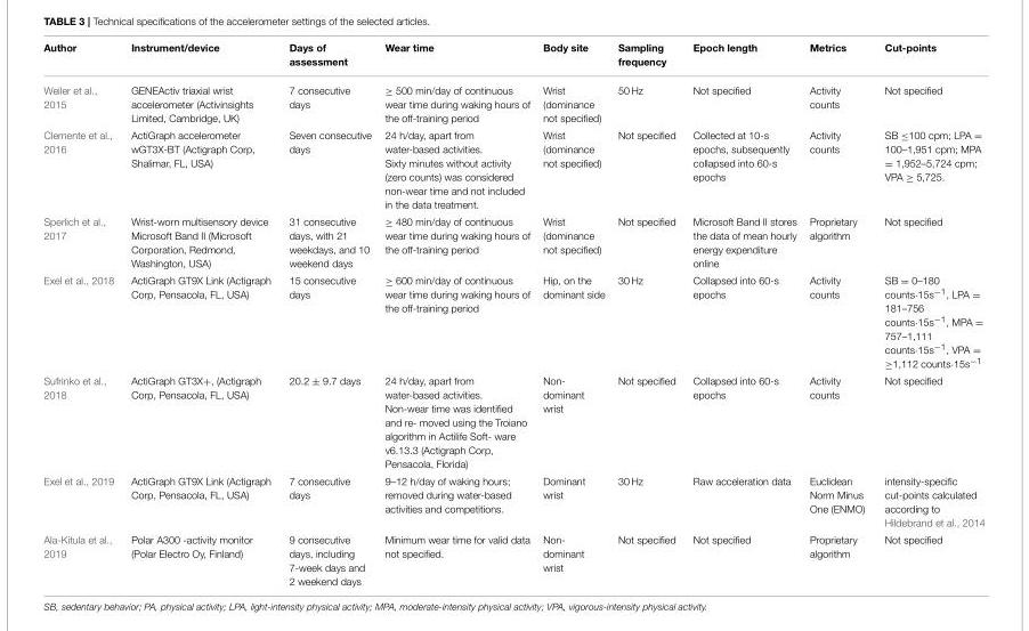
<table><thead><tr><td>Author</td><td>Instrument/device</td><td>Days of assessment</td><td>Wear time</td><td>Body site</td><td>Sampling frequency</td><td>Epoch length</td><td>Metrics</td><td>Cut-points</td></tr></thead><tbody><tr><td>Weiler et al., 2015</td><td>GENEActiv triaxial wrist accelerometer (Activinsights Limited, Cambridge, UK)</td><td>7 consecutive days</td><td>≥ 500 min/day of continuous wear time during waking hours of the off-training period</td><td>Wrist (dominance not specified)</td><td>50 Hz</td><td>Not specified</td><td>Activity counts</td><td>Not specified</td></tr><tr><td>Clemente et al., 2016</td><td>ActiGraph accelerometer wGT3X-BT (Actigraph Corp, Shalimar, FL, USA)</td><td>Seven consecutive days</td><td>24 h/day, apart from water-based activities. Sixty minutes without activity (zero counts) was considered non-wear time and not included in the data treatment.</td><td>Wrist (dominance not specified)</td><td>Not specified</td><td>Collected at 10-s epochs, subsequently collapsed into 60-s epochs</td><td>Activity counts</td><td>SB ≤100 cpm; LPA = 100–1,951 cpm; MPA = 1,952–5,724 cpm; VPA ≥ 5,725.</td></tr><tr><td>Sperlich et al., 2017</td><td>Wrist-worn multisensory device Microsoft Band II (Microsoft Corporation, Redmond, Washington, USA)</td><td>31 consecutive days, with 21 weekdays, and 10 weekend days</td><td>≥ 480 min/day of continuous wear time during waking hours of the off-training period</td><td>Wrist (dominance not specified)</td><td>Not specified</td><td>Microsoft Band II stores the data of mean hourly energy expenditure online</td><td>Proprietary algorithm</td><td>Not specified</td></tr><tr><td>Exel et al., 2018</td><td>ActiGraph GT9X Link (Actigraph Corp, Pensacola, FL, USA)</td><td>15 consecutive days</td><td>≥ 600 min/day of continuous wear time during waking hours of the off-training period</td><td>Hip, on the dominant side</td><td>30 Hz</td><td>Collapsed into 60-s epochs</td><td>Activity counts</td><td>SB = 0–180 counts·15s<sup>−1</sup>, LPA = 181–756 counts·15s<sup>−1</sup>, MPA = 757–1,111 counts·15s<sup>−1</sup>, VPA = ≥1,112 counts·15s<sup>−1</sup></td></tr><tr><td>Sufrinko et al., 2018</td><td>ActiGraph GT3X+, (Actigraph Corp, Pensacola, FL, USA)</td><td>20.2 ± 9.7 days</td><td>24 h/day, apart from water-based activities. Non-wear time was identified and re- moved using the Troiano algorithm in Actilife Soft- ware v6.13.3 (Actigraph Corp, Pensacola, Florida)</td><td>Non- dominant wrist</td><td>Not specified</td><td>Collapsed into 60-s epochs</td><td>Activity counts</td><td>Not specified</td></tr><tr><td>Exel et al., 2019</td><td>ActiGraph GT9X Link (Actigraph Corp, Pensacola, FL, USA)</td><td>7 consecutive days</td><td>9–12 h/day of waking hours; removed during water-based activities and competitions.</td><td>Dominant wrist</td><td>30 Hz</td><td>Raw acceleration data</td><td>Euclidean Norm Minus One (ENMO)</td><td>intensity-specific cut-points calculated according to Hildebrand et al., 2014</td></tr><tr><td>Ala-Kitula et al., 2019</td><td>Polar A300 -activity monitor (Polar Electro Oy, Finland)</td><td>9 consecutive days, including 7-week days and 2 weekend days</td><td>Minimum wear time for valid data not specified.</td><td>Non- dominant wrist</td><td>Not specified</td><td>Not specified</td><td>Proprietary algorithm</td><td>Not specified</td></tr></tbody></table>